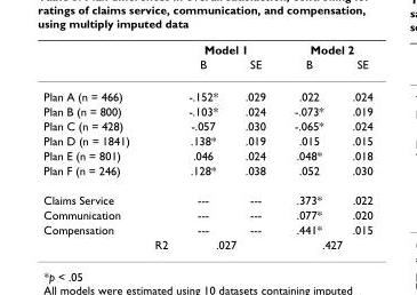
<table><thead><tr><td rowspan="2"></td><td colspan="2">Model 1</td><td colspan="2">Model 2</td></tr><tr><td>B</td><td>SE</td><td>B</td><td>SE</td></tr></thead><tbody><tr><td>Plan A (n = 466)</td><td>-.152*</td><td>.029</td><td>.022</td><td>.024</td></tr><tr><td>Plan B (n = 800)</td><td>-.103*</td><td>.024</td><td>-.073*</td><td>.019</td></tr><tr><td>Plan C (n = 428)</td><td>-.057</td><td>.030</td><td>-.065*</td><td>.024</td></tr><tr><td>Plan D (n = 1841)</td><td>.138*</td><td>.019</td><td>.015</td><td>.015</td></tr><tr><td>Plan E (n = 801)</td><td>.046</td><td>.024</td><td>.048*</td><td>.018</td></tr><tr><td>Plan F (n = 246)</td><td>.128*</td><td>.038</td><td>.052</td><td>.030</td></tr><tr><td>Claims Service</td><td>---</td><td>---</td><td>.373*</td><td>.022</td></tr><tr><td>Communication</td><td>---</td><td>---</td><td>.077*</td><td>.020</td></tr><tr><td>Compensation</td><td>---</td><td>---</td><td>.441*</td><td>.015</td></tr><tr><td>R2</td><td colspan="2">.027</td><td colspan="2">.427</td></tr></tbody></table>